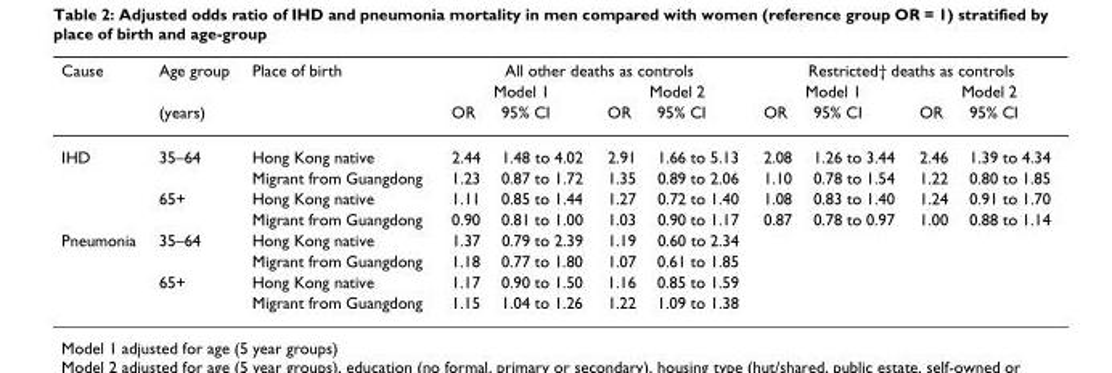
<table><thead><tr><td rowspan="3">Cause</td><td rowspan="3">Age group (years)</td><td rowspan="3">Place of birth</td><td colspan="4">All other deaths as controls</td><td colspan="4">Restricted† deaths as controls</td></tr><tr><td colspan="2">Model 1</td><td colspan="2">Model 2</td><td colspan="2">Model 1</td><td colspan="2">Model 2</td></tr><tr><td>OR</td><td>95% CI</td><td>OR</td><td>95% CI</td><td>OR</td><td>95% CI</td><td>OR</td><td>95% CI</td></tr></thead><tbody><tr><td rowspan="4">IHD</td><td>35–64</td><td>Hong Kong native</td><td>2.44</td><td>1.48 to 4.02</td><td>2.91</td><td>1.66 to 5.13</td><td>2.08</td><td>1.26 to 3.44</td><td>2.46</td><td>1.39 to 4.34</td></tr><tr><td></td><td>Migrant from Guangdong</td><td>1.23</td><td>0.87 to 1.72</td><td>1.35</td><td>0.89 to 2.06</td><td>1.10</td><td>0.78 to 1.54</td><td>1.22</td><td>0.80 to 1.85</td></tr><tr><td>65+</td><td>Hong Kong native</td><td>1.11</td><td>0.85 to 1.44</td><td>1.27</td><td>0.72 to 1.40</td><td>1.08</td><td>0.83 to 1.40</td><td>1.24</td><td>0.91 to 1.70</td></tr><tr><td></td><td>Migrant from Guangdong</td><td>0.90</td><td>0.81 to 1.00</td><td>1.03</td><td>0.90 to 1.17</td><td>0.87</td><td>0.78 to 0.97</td><td>1.00</td><td>0.88 to 1.14</td></tr><tr><td rowspan="4">Pneumonia</td><td>35–64</td><td>Hong Kong native</td><td>1.37</td><td>0.79 to 2.39</td><td>1.19</td><td>0.60 to 2.34</td><td></td><td></td><td></td><td></td></tr><tr><td></td><td>Migrant from Guangdong</td><td>1.18</td><td>0.77 to 1.80</td><td>1.07</td><td>0.61 to 1.85</td><td></td><td></td><td></td><td></td></tr><tr><td>65+</td><td>Hong Kong native</td><td>1.17</td><td>0.90 to 1.50</td><td>1.16</td><td>0.85 to 1.59</td><td></td><td></td><td></td><td></td></tr><tr><td></td><td>Migrant from Guangdong</td><td>1.15</td><td>1.04 to 1.26</td><td>1.22</td><td>1.09 to 1.38</td><td></td><td></td><td></td><td></td></tr></tbody></table>